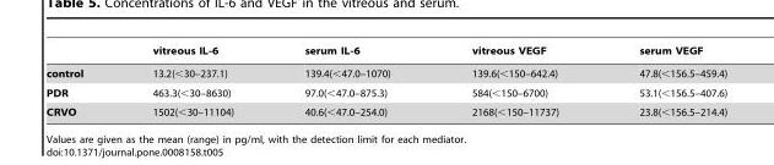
<table><thead><tr><td></td><td>vitreous IL-6</td><td>serum IL-6</td><td>vitreous VEGF</td><td>serum VEGF</td></tr></thead><tbody><tr><td>control</td><td>13.2(&lt;30–237.1)</td><td>139.4(&lt;47.0–1070)</td><td>139.6(&lt;150–642.4)</td><td>47.8(&lt;156.5–459.4)</td></tr><tr><td>PDR</td><td>463.3(&lt;30–8630)</td><td>97.0(&lt;47.0–875.3)</td><td>584(&lt;150–6700)</td><td>53.1(&lt;156.5–407.6)</td></tr><tr><td>CRVO</td><td>1502(&lt;30–11104)</td><td>40.6(&lt;47.0–254.0)</td><td>2168(&lt;150–11737)</td><td>23.8(&lt;156.5–214.4)</td></tr></tbody></table>